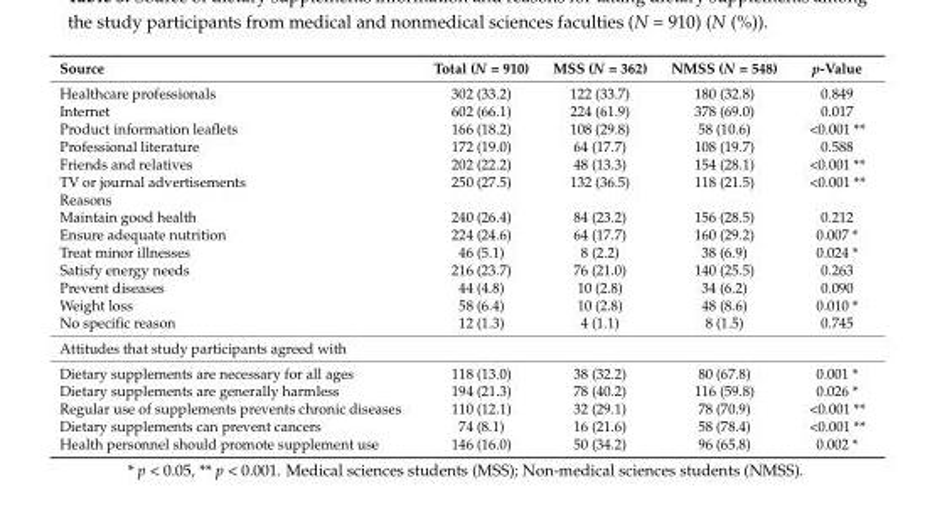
<table><thead><tr><td>Source</td><td>Total (N = 910)</td><td>MSS (N = 362)</td><td>NMSS (N = 548)</td><td>p-Value</td></tr></thead><tbody><tr><td>Healthcare professionals</td><td>302 (33.2)</td><td>122 (33.7)</td><td>180 (32.8)</td><td>0.849</td></tr><tr><td>Internet</td><td>602 (66.1)</td><td>224 (61.9)</td><td>378 (69.0)</td><td>0.017</td></tr><tr><td>Product information leaflets</td><td>166 (18.2)</td><td>108 (29.8)</td><td>58 (10.6)</td><td>&lt;0.001 **</td></tr><tr><td>Professional literature</td><td>172 (19.0)</td><td>64 (17.7)</td><td>108 (19.7)</td><td>0.588</td></tr><tr><td>Friends and relatives</td><td>202 (22.2)</td><td>48 (13.3)</td><td>154 (28.1)</td><td>&lt;0.001 **</td></tr><tr><td>TV or journal advertisements</td><td>250 (27.5)</td><td>132 (36.5)</td><td>118 (21.5)</td><td>&lt;0.001 **</td></tr><tr><td colspan="5">Reasons</td></tr><tr><td>Maintain good health</td><td>240 (26.4)</td><td>84 (23.2)</td><td>156 (28.5)</td><td>0.212</td></tr><tr><td>Ensure adequate nutrition</td><td>224 (24.6)</td><td>64 (17.7)</td><td>160 (29.2)</td><td>0.007 *</td></tr><tr><td>Treat minor illnesses</td><td>46 (5.1)</td><td>8 (2.2)</td><td>38 (6.9)</td><td>0.024 *</td></tr><tr><td>Satisfy energy needs</td><td>216 (23.7)</td><td>76 (21.0)</td><td>140 (25.5)</td><td>0.263</td></tr><tr><td>Prevent diseases</td><td>44 (4.8)</td><td>10 (2.8)</td><td>34 (6.2)</td><td>0.090</td></tr><tr><td>Weight loss</td><td>58 (6.4)</td><td>10 (2.8)</td><td>48 (8.6)</td><td>0.010 *</td></tr><tr><td>No specific reason</td><td>12 (1.3)</td><td>4 (1.1)</td><td>8 (1.5)</td><td>0.745</td></tr><tr><td colspan="5">Attitudes that study participants agreed with</td></tr><tr><td>Dietary supplements are necessary for all ages</td><td>118 (13.0)</td><td>38 (32.2)</td><td>80 (67.8)</td><td>0.001 *</td></tr><tr><td>Dietary supplements are generally harmless</td><td>194 (21.3)</td><td>78 (40.2)</td><td>116 (59.8)</td><td>0.026 *</td></tr><tr><td>Regular use of supplements prevents chronic diseases</td><td>110 (12.1)</td><td>32 (29.1)</td><td>78 (70.9)</td><td>&lt;0.001 **</td></tr><tr><td>Dietary supplements can prevent cancers</td><td>74 (8.1)</td><td>16 (21.6)</td><td>58 (78.4)</td><td>&lt;0.001 **</td></tr><tr><td>Health personnel should promote supplement use</td><td>146 (16.0)</td><td>50 (34.2)</td><td>96 (65.8)</td><td>0.002 *</td></tr></tbody></table>